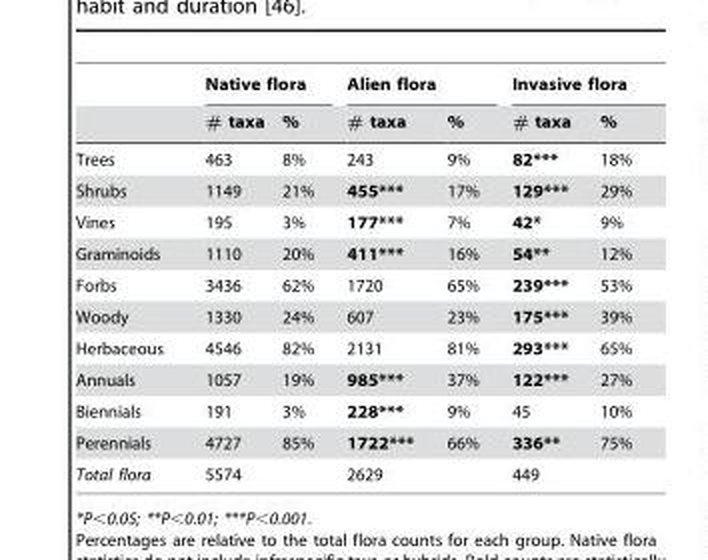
<table><thead><tr><td rowspan="2"></td><td colspan="2">Native flora</td><td colspan="2">Alien flora</td><td colspan="2">Invasive flora</td></tr><tr><td># taxa</td><td>%</td><td># taxa</td><td>%</td><td># taxa</td><td>%</td></tr></thead><tbody><tr><td>Trees</td><td>463</td><td>8%</td><td>243</td><td>9%</td><td>82***</td><td>18%</td></tr><tr><td>Shrubs</td><td>1149</td><td>21%</td><td>455***</td><td>17%</td><td>129***</td><td>29%</td></tr><tr><td>Vines</td><td>195</td><td>3%</td><td>177***</td><td>7%</td><td>42*</td><td>9%</td></tr><tr><td>Graminoids</td><td>1110</td><td>20%</td><td>411***</td><td>16%</td><td>54**</td><td>12%</td></tr><tr><td>Forbs</td><td>3436</td><td>62%</td><td>1720</td><td>65%</td><td>239***</td><td>53%</td></tr><tr><td>Woody</td><td>1330</td><td>24%</td><td>607</td><td>23%</td><td>175***</td><td>39%</td></tr><tr><td>Herbaceous</td><td>4546</td><td>82%</td><td>2131</td><td>81%</td><td>293***</td><td>65%</td></tr><tr><td>Annuals</td><td>1057</td><td>19%</td><td>985***</td><td>37%</td><td>122***</td><td>27%</td></tr><tr><td>Biennials</td><td>191</td><td>3%</td><td>228***</td><td>9%</td><td>45</td><td>10%</td></tr><tr><td>Perennials</td><td>4727</td><td>85%</td><td>1722***</td><td>66%</td><td>336**</td><td>75%</td></tr><tr><td>Total flora</td><td>5574</td><td></td><td>2629</td><td></td><td>449</td><td></td></tr></tbody></table>